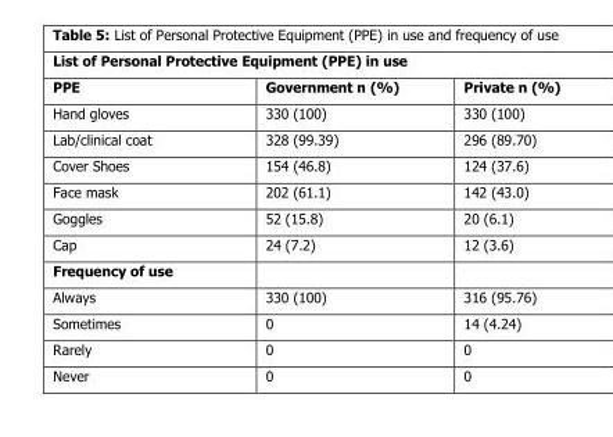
<table><thead><tr><td colspan="3">List of Personal Protective Equipment (PPE) in use</td></tr><tr><td>PPE</td><td>Government n (%)</td><td>Private n (%)</td></tr></thead><tbody><tr><td>Hand gloves</td><td>330 (100)</td><td>330 (100)</td></tr><tr><td>Lab/clinical coat</td><td>328 (99.39)</td><td>296 (89.70)</td></tr><tr><td>Cover Shoes</td><td>154 (46.8)</td><td>124 (37.6)</td></tr><tr><td>Face mask</td><td>202 (61.1)</td><td>142 (43.0)</td></tr><tr><td>Goggles</td><td>52 (15.8)</td><td>20 (6.1)</td></tr><tr><td>Cap</td><td>24 (7.2)</td><td>12 (3.6)</td></tr><tr><td colspan="3">Frequency of use</td></tr><tr><td>Always</td><td>330 (100)</td><td>316 (95.76)</td></tr><tr><td>Sometimes</td><td>0</td><td>14 (4.24)</td></tr><tr><td>Rarely</td><td>0</td><td>0</td></tr><tr><td>Never</td><td>0</td><td>0</td></tr></tbody></table>